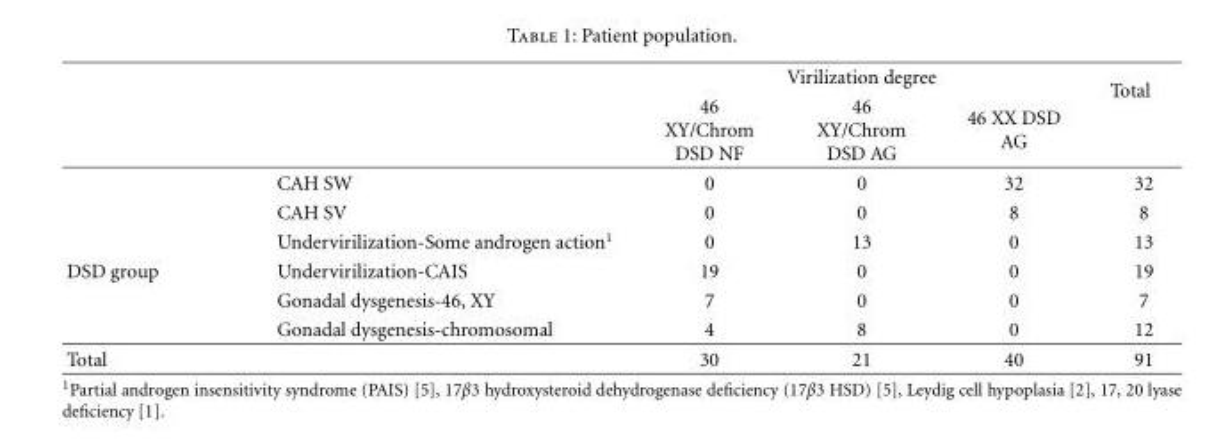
<table><thead><tr><td rowspan="2"></td><td rowspan="2"></td><td colspan="3">Virilization degree</td><td rowspan="2">Total</td></tr><tr><td>46 XY/Chrom DSD NF</td><td>46 XY/Chrom DSD AG</td><td>46 XX DSD AG</td></tr></thead><tbody><tr><td></td><td>CAH SW</td><td>0</td><td>0</td><td>32</td><td>32</td></tr><tr><td></td><td>CAH SV</td><td>0</td><td>0</td><td>8</td><td>8</td></tr><tr><td></td><td>Undervirilization-Some androgen action<sup>1</sup></td><td>0</td><td>13</td><td>0</td><td>13</td></tr><tr><td rowspan="3">DSD group</td><td>Undervirilization-CAIS</td><td>19</td><td>0</td><td>0</td><td>19</td></tr><tr><td>Gonadal dysgenesis-46, XY</td><td>7</td><td>0</td><td>0</td><td>7</td></tr><tr><td>Gonadal dysgenesis-chromosomal</td><td>4</td><td>8</td><td>0</td><td>12</td></tr><tr><td>Total</td><td></td><td>30</td><td>21</td><td>40</td><td>91</td></tr></tbody></table>